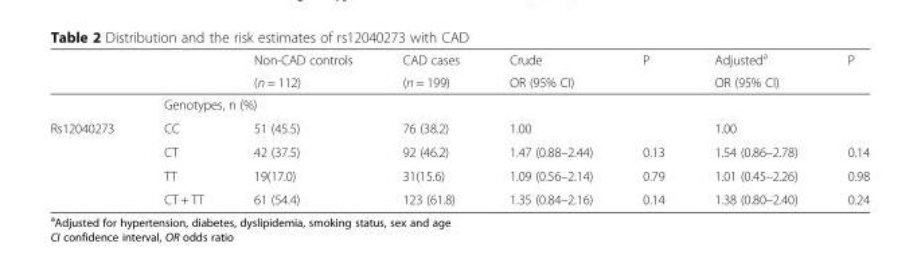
<table><thead><tr><td rowspan="2"></td><td rowspan="2"></td><td rowspan="2">Non-CAD controls (n = 112)</td><td rowspan="2">CAD cases (n = 199)</td><td rowspan="2">Crude OR (95% CI)</td><td rowspan="2">P</td><td rowspan="2">Adjusted<sup>a</sup> OR (95% CI)</td><td rowspan="2">P</td></tr><tr></tr></thead><tbody><tr><td></td><td colspan="7">Genotypes, n (%)</td></tr><tr><td rowspan="4">Rs12040273</td><td>CC</td><td>51 (45.5)</td><td>76 (38.2)</td><td>1.00</td><td></td><td>1.00</td><td></td></tr><tr><td>CT</td><td>42 (37.5)</td><td>92 (46.2)</td><td>1.47 (0.88–2.44)</td><td>0.13</td><td>1.54 (0.86–2.78)</td><td>0.14</td></tr><tr><td>TT</td><td>19(17.0)</td><td>31(15.6)</td><td>1.09 (0.56–2.14)</td><td>0.79</td><td>1.01 (0.45–2.26)</td><td>0.98</td></tr><tr><td>CT + TT</td><td>61 (54.4)</td><td>123 (61.8)</td><td>1.35 (0.84–2.16)</td><td>0.14</td><td>1.38 (0.80–2.40)</td><td>0.24</td></tr></tbody></table>